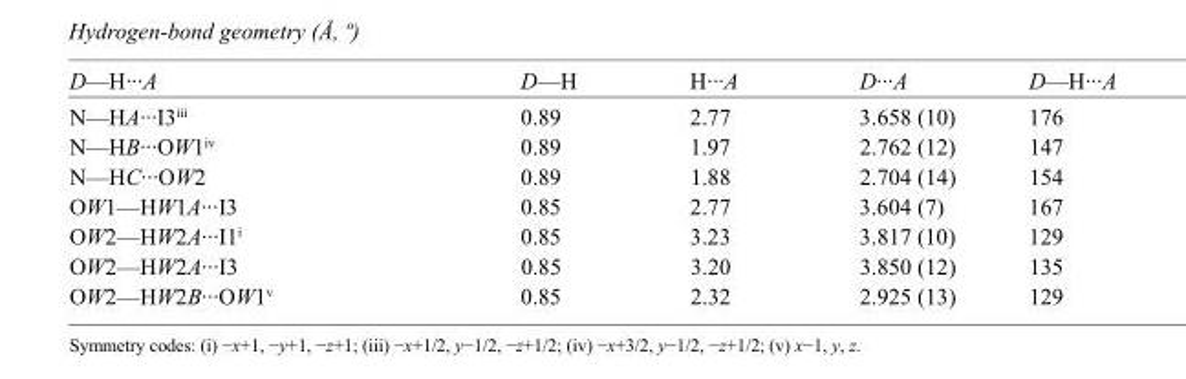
<table><tbody><tr><td>D—H···A</td><td>D—H</td><td>H···A</td><td>D···A</td><td>D—H···A</td></tr><tr><td>N—HA···I3<sup>iii</sup></td><td>0.89</td><td>2.77</td><td>3.658 (10)</td><td>176</td></tr><tr><td>N—HB···OW1<sup>iv</sup></td><td>0.89</td><td>1.97</td><td>2.762 (12)</td><td>147</td></tr><tr><td>N—HC···OW2</td><td>0.89</td><td>1.88</td><td>2.704 (14)</td><td>154</td></tr><tr><td>OW1—HW1A···I3</td><td>0.85</td><td>2.77</td><td>3.604 (7)</td><td>167</td></tr><tr><td>OW2—HW2A···I1<sup>i</sup></td><td>0.85</td><td>3.23</td><td>3.817 (10)</td><td>129</td></tr><tr><td>OW2—HW2A···I3</td><td>0.85</td><td>3.20</td><td>3.850 (12)</td><td>135</td></tr><tr><td>OW2—HW2B···OW1<sup>v</sup></td><td>0.85</td><td>2.32</td><td>2.925 (13)</td><td>129</td></tr></tbody></table>